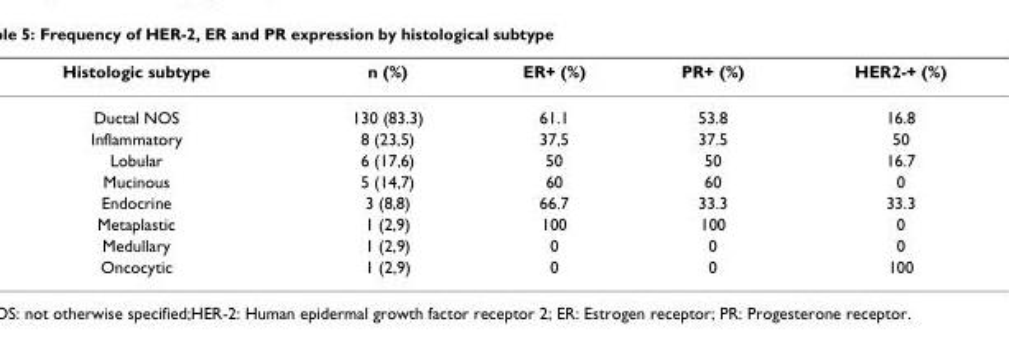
<table><thead><tr><td>Histologic subtype</td><td>n (%)</td><td>ER+ (%)</td><td>PR+ (%)</td><td>HER2-+ (%)</td></tr></thead><tbody><tr><td>Ductal NOS</td><td>130 (83.3)</td><td>61.1</td><td>53.8</td><td>16.8</td></tr><tr><td>Inflammatory</td><td>8 (23,5)</td><td>37,5</td><td>37.5</td><td>50</td></tr><tr><td>Lobular</td><td>6 (17,6)</td><td>50</td><td>50</td><td>16.7</td></tr><tr><td>Mucinous</td><td>5 (14,7)</td><td>60</td><td>60</td><td>0</td></tr><tr><td>Endocrine</td><td>3 (8,8)</td><td>66.7</td><td>33.3</td><td>33.3</td></tr><tr><td>Metaplastic</td><td>1 (2,9)</td><td>100</td><td>100</td><td>0</td></tr><tr><td>Medullary</td><td>1 (2,9)</td><td>0</td><td>0</td><td>0</td></tr><tr><td>Oncocytic</td><td>1 (2,9)</td><td>0</td><td>0</td><td>100</td></tr></tbody></table>